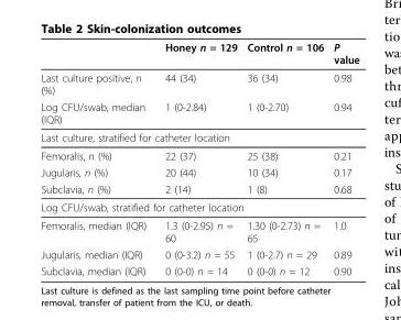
<table><thead><tr><td></td><td>Honey n = 129</td><td>Control n = 106</td><td>P value</td></tr></thead><tbody><tr><td>Last culture positive, n (%)</td><td>44 (34)</td><td>36 (34)</td><td>0.98</td></tr><tr><td>Log CFU/swab, median (IQR)</td><td>1 (0-2.84)</td><td>1 (0-2.70)</td><td>0.94</td></tr><tr><td colspan="4">Last culture, stratified for catheter location</td></tr><tr><td>Femoralis, n (%)</td><td>22 (37)</td><td>25 (38)</td><td>0.21</td></tr><tr><td>Jugularis, n (%)</td><td>20 (44)</td><td>10 (34)</td><td>0.17</td></tr><tr><td>Subclavia, n (%)</td><td>2 (14)</td><td>1 (8)</td><td>0.68</td></tr><tr><td colspan="4">Log CFU/swab, stratified for catheter location</td></tr><tr><td>Femoralis, median (IQR)</td><td>1.3 (0-2.95) n = 60</td><td>1.30 (0-2.73) n = 65</td><td>1.0</td></tr><tr><td>Jugularis, median (IQR)</td><td>0 (0-3.2) n = 55</td><td>1 (0-2.7) n = 29</td><td>0.89</td></tr><tr><td>Subclavia, median (IQR)</td><td>0 (0-0) n = 14</td><td>0 (0-0) n = 12</td><td>0.90</td></tr></tbody></table>